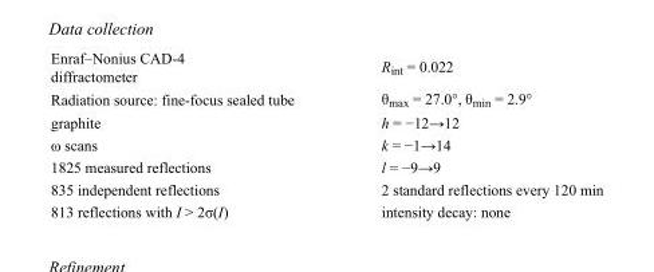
<table><tbody><tr><td>Enraf–Nonius CAD-4 diffractometer</td><td>R<sub>int</sub> = 0.022</td></tr><tr><td>Radiation source: fine-focus sealed tube</td><td>θ<sub>max</sub> = 27.0°, θ<sub>min</sub> = 2.9°</td></tr><tr><td>graphite</td><td>h = −12→12</td></tr><tr><td>ω scans</td><td>k = −1→14</td></tr><tr><td>1825 measured reflections</td><td>l = −9→9</td></tr><tr><td>835 independent reflections</td><td>2 standard reflections every 120 min</td></tr><tr><td>813 reflections with I &gt; 2σ(I)</td><td>intensity decay: none</td></tr></tbody></table>